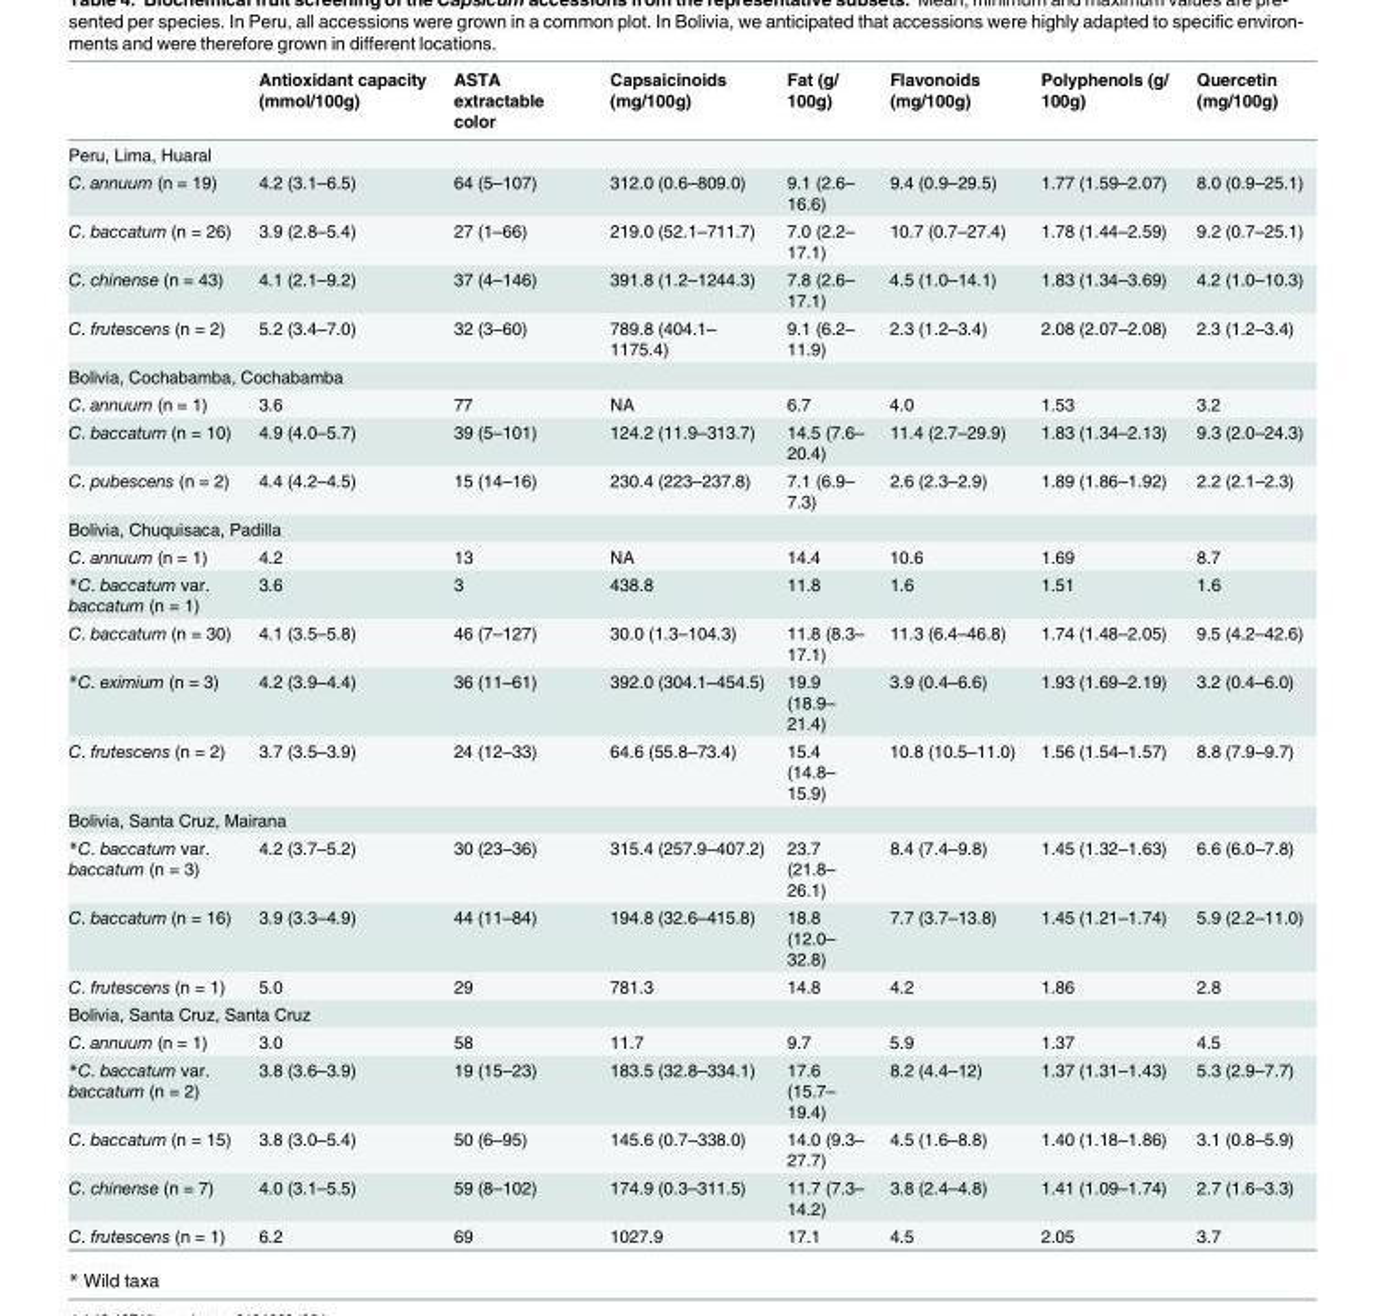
<table><thead><tr><td></td><td>Antioxidant capacity (mmol/100g)</td><td>ASTA extractable color</td><td>Capsaicinoids (mg/100g)</td><td>Fat (g/ 100g)</td><td>Flavonoids (mg/100g)</td><td>Polyphenols (g/ 100g)</td><td>Quercetin (mg/100g)</td></tr></thead><tbody><tr><td colspan="8">Peru, Lima, Huaral</td></tr><tr><td>C. annuum (n = 19)</td><td>4.2 (3.1–6.5)</td><td>64 (5–107)</td><td>312.0 (0.6–809.0)</td><td>9.1 (2.6– 16.6)</td><td>9.4 (0.9–29.5)</td><td>1.77 (1.59–2.07)</td><td>8.0 (0.9–25.1)</td></tr><tr><td>C. baccatum (n = 26)</td><td>3.9 (2.8–5.4)</td><td>27 (1–66)</td><td>219.0 (52.1–711.7)</td><td>7.0 (2.2– 17.1)</td><td>10.7 (0.7–27.4)</td><td>1.78 (1.44–2.59)</td><td>9.2 (0.7–25.1)</td></tr><tr><td>C. chinense (n = 43)</td><td>4.1 (2.1–9.2)</td><td>37 (4–146)</td><td>391.8 (1.2–1244.3)</td><td>7.8 (2.6– 17.1)</td><td>4.5 (1.0–14.1)</td><td>1.83 (1.34–3.69)</td><td>4.2 (1.0–10.3)</td></tr><tr><td>C. frutescens (n = 2)</td><td>5.2 (3.4–7.0)</td><td>32 (3–60)</td><td>789.8 (404.1– 1175.4)</td><td>9.1 (6.2– 11.9)</td><td>2.3 (1.2–3.4)</td><td>2.08 (2.07–2.08)</td><td>2.3 (1.2–3.4)</td></tr><tr><td colspan="8">Bolivia, Cochabamba, Cochabamba</td></tr><tr><td>C. annuum (n = 1)</td><td>3.6</td><td>77</td><td>NA</td><td>6.7</td><td>4.0</td><td>1.53</td><td>3.2</td></tr><tr><td>C. baccatum (n = 10)</td><td>4.9 (4.0–5.7)</td><td>39 (5–101)</td><td>124.2 (11.9–313.7)</td><td>14.5 (7.6– 20.4)</td><td>11.4 (2.7–29.9)</td><td>1.83 (1.34–2.13)</td><td>9.3 (2.0–24.3)</td></tr><tr><td>C. pubescens (n = 2)</td><td>4.4 (4.2–4.5)</td><td>15 (14–16)</td><td>230.4 (223–237.8)</td><td>7.1 (6.9– 7.3)</td><td>2.6 (2.3–2.9)</td><td>1.89 (1.86–1.92)</td><td>2.2 (2.1–2.3)</td></tr><tr><td colspan="8">Bolivia, Chuquisaca, Padilla</td></tr><tr><td>C. annuum (n = 1)</td><td>4.2</td><td>13</td><td>NA</td><td>14.4</td><td>10.6</td><td>1.69</td><td>8.7</td></tr><tr><td>*C. baccatum var. baccatum (n = 1)</td><td>3.6</td><td>3</td><td>438.8</td><td>11.8</td><td>1.6</td><td>1.51</td><td>1.6</td></tr><tr><td>C. baccatum (n = 30)</td><td>4.1 (3.5–5.8)</td><td>46 (7–127)</td><td>30.0 (1.3–104.3)</td><td>11.8 (8.3– 17.1)</td><td>11.3 (6.4–46.8)</td><td>1.74 (1.48–2.05)</td><td>9.5 (4.2–42.6)</td></tr><tr><td>*C. eximium (n = 3)</td><td>4.2 (3.9–4.4)</td><td>36 (11–61)</td><td>392.0 (304.1–454.5)</td><td>19.9 (18.9– 21.4)</td><td>3.9 (0.4–6.6)</td><td>1.93 (1.69–2.19)</td><td>3.2 (0.4–6.0)</td></tr><tr><td>C. frutescens (n = 2)</td><td>3.7 (3.5–3.9)</td><td>24 (12–33)</td><td>64.6 (55.8–73.4)</td><td>15.4 (14.8– 15.9)</td><td>10.8 (10.5–11.0)</td><td>1.56 (1.54–1.57)</td><td>8.8 (7.9–9.7)</td></tr><tr><td colspan="8">Bolivia, Santa Cruz, Mairana</td></tr><tr><td>*C. baccatum var. baccatum (n = 3)</td><td>4.2 (3.7–5.2)</td><td>30 (23–36)</td><td>315.4 (257.9–407.2)</td><td>23.7 (21.8– 26.1)</td><td>8.4 (7.4–9.8)</td><td>1.45 (1.32–1.63)</td><td>6.6 (6.0–7.8)</td></tr><tr><td>C. baccatum (n = 16)</td><td>3.9 (3.3–4.9)</td><td>44 (11–84)</td><td>194.8 (32.6–415.8)</td><td>18.8 (12.0– 32.8)</td><td>7.7 (3.7–13.8)</td><td>1.45 (1.21–1.74)</td><td>5.9 (2.2–11.0)</td></tr><tr><td>C. frutescens (n = 1)</td><td>5.0</td><td>29</td><td>781.3</td><td>14.8</td><td>4.2</td><td>1.86</td><td>2.8</td></tr><tr><td colspan="8">Bolivia, Santa Cruz, Santa Cruz</td></tr><tr><td>C. annuum (n = 1)</td><td>3.0</td><td>58</td><td>11.7</td><td>9.7</td><td>5.9</td><td>1.37</td><td>4.5</td></tr><tr><td>*C. baccatum var. baccatum (n = 2)</td><td>3.8 (3.6–3.9)</td><td>19 (15–23)</td><td>183.5 (32.8–334.1)</td><td>17.6 (15.7– 19.4)</td><td>8.2 (4.4–12)</td><td>1.37 (1.31–1.43)</td><td>5.3 (2.9–7.7)</td></tr><tr><td>C. baccatum (n = 15)</td><td>3.8 (3.0–5.4)</td><td>50 (6–95)</td><td>145.6 (0.7–338.0)</td><td>14.0 (9.3– 27.7)</td><td>4.5 (1.6–8.8)</td><td>1.40 (1.18–1.86)</td><td>3.1 (0.8–5.9)</td></tr><tr><td>C. chinense (n = 7)</td><td>4.0 (3.1–5.5)</td><td>59 (8–102)</td><td>174.9 (0.3–311.5)</td><td>11.7 (7.3– 14.2)</td><td>3.8 (2.4–4.8)</td><td>1.41 (1.09–1.74)</td><td>2.7 (1.6–3.3)</td></tr><tr><td>C. frutescens (n = 1)</td><td>6.2</td><td>69</td><td>1027.9</td><td>17.1</td><td>4.5</td><td>2.05</td><td>3.7</td></tr></tbody></table>